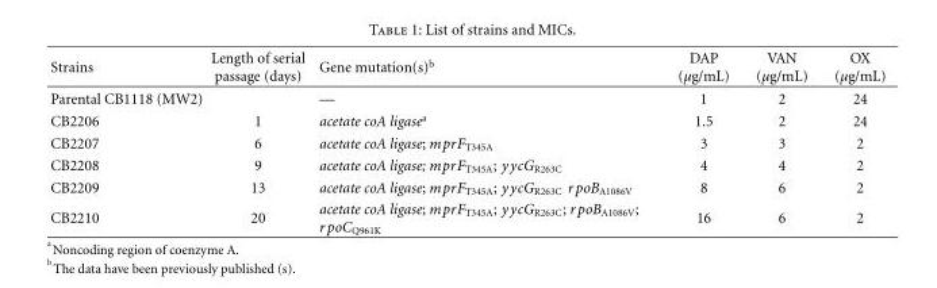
<table><thead><tr><td>Strains</td><td>Length of serial passage (days)</td><td>Gene mutation(s)<sup>b</sup></td><td>DAP (μg/mL)</td><td>VAN (μg/mL)</td><td>OX (μg/mL)</td></tr></thead><tbody><tr><td>Parental CB1118 (MW2)</td><td></td><td>—</td><td>1</td><td>2</td><td>24</td></tr><tr><td>CB2206</td><td>1</td><td>acetate coA ligase<sup>a</sup></td><td>1.5</td><td>2</td><td>24</td></tr><tr><td>CB2207</td><td>6</td><td>acetate coA ligase; mprF<sub>T345A</sub></td><td>3</td><td>3</td><td>2</td></tr><tr><td>CB2208</td><td>9</td><td>acetate coA ligase; mprF<sub>T345A</sub>; yycG<sub>R263C</sub></td><td>4</td><td>4</td><td>2</td></tr><tr><td>CB2209</td><td>13</td><td>acetate coA ligase; mprF<sub>T345A</sub>; yycG<sub>R263C</sub> rpoB<sub>A1086V</sub></td><td>8</td><td>6</td><td>2</td></tr><tr><td>CB2210</td><td>20</td><td>acetate coA ligase; mprF<sub>T345A</sub>; yycG<sub>R263C</sub>; rpoB<sub>A1086V</sub>; rpoC<sub>Q961K</sub></td><td>16</td><td>6</td><td>2</td></tr></tbody></table>